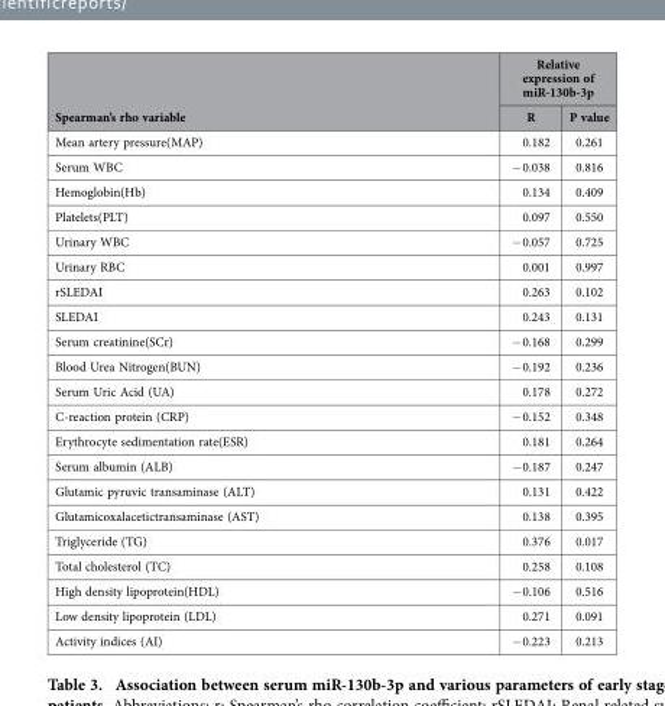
<table><thead><tr><td rowspan="2">Spearman’s rho variable</td><td colspan="2">Relative expression of miR-130b-3p</td></tr><tr><td>R</td><td>P value</td></tr></thead><tbody><tr><td>Mean artery pressure(MAP)</td><td>0.182</td><td>0.261</td></tr><tr><td>Serum WBC</td><td>− 0.038</td><td>0.816</td></tr><tr><td>Hemoglobin(Hb)</td><td>0.134</td><td>0.409</td></tr><tr><td>Platelets(PLT)</td><td>0.097</td><td>0.550</td></tr><tr><td>Urinary WBC</td><td>− 0.057</td><td>0.725</td></tr><tr><td>Urinary RBC</td><td>0.001</td><td>0.997</td></tr><tr><td>rSLEDAI</td><td>0.263</td><td>0.102</td></tr><tr><td>SLEDAI</td><td>0.243</td><td>0.131</td></tr><tr><td>Serum creatinine(SCr)</td><td>− 0.168</td><td>0.299</td></tr><tr><td>Blood Urea Nitrogen(BUN)</td><td>− 0.192</td><td>0.236</td></tr><tr><td>Serum Uric Acid (UA)</td><td>0.178</td><td>0.272</td></tr><tr><td>C-reaction protein (CRP)</td><td>− 0.152</td><td>0.348</td></tr><tr><td>Erythrocyte sedimentation rate(ESR)</td><td>0.181</td><td>0.264</td></tr><tr><td>Serum albumin (ALB)</td><td>− 0.187</td><td>0.247</td></tr><tr><td>Glutamic pyruvic transaminase (ALT)</td><td>0.131</td><td>0.422</td></tr><tr><td>Glutamicoxalacetictransaminase (AST)</td><td>0.138</td><td>0.395</td></tr><tr><td>Triglyceride (TG)</td><td>0.376</td><td>0.017</td></tr><tr><td>Total cholesterol (TC)</td><td>0.258</td><td>0.108</td></tr><tr><td>High density lipoprotein(HDL)</td><td>− 0.106</td><td>0.516</td></tr><tr><td>Low density lipoprotein (LDL)</td><td>0.271</td><td>0.091</td></tr><tr><td>Activity indices (AI)</td><td>− 0.223</td><td>0.213</td></tr></tbody></table>